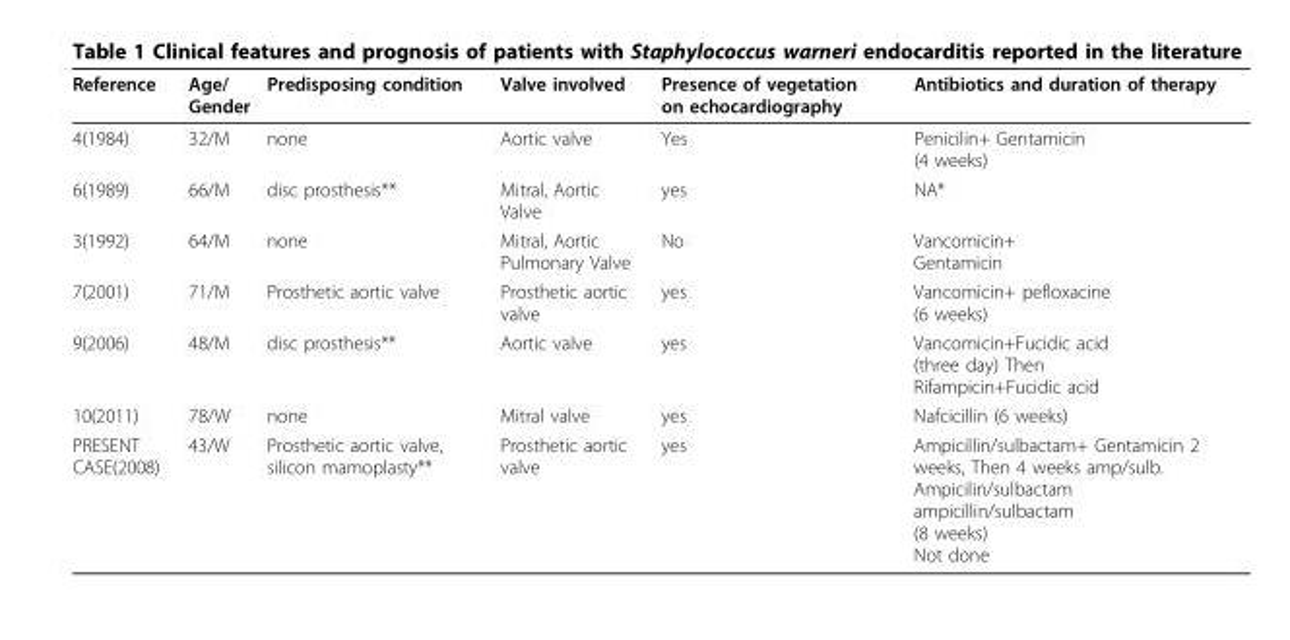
<table><thead><tr><td>Reference</td><td>Age/ Gender</td><td>Predisposing condition</td><td>Valve involved</td><td>Presence of vegetation on echocardiography</td><td>Antibiotics and duration of therapy</td></tr></thead><tbody><tr><td>4(1984)</td><td>32/M</td><td>none</td><td>Aortic valve</td><td>Yes</td><td>Penicilin+ Gentamicin (4 weeks)</td></tr><tr><td>6(1989)</td><td>66/M</td><td>disc prosthesis**</td><td>Mitral, Aortic Valve</td><td>yes</td><td>NA*</td></tr><tr><td>3(1992)</td><td>64/M</td><td>none</td><td>Mitral, Aortic Pulmonary Valve</td><td>No</td><td>Vancomicin+ Gentamicin</td></tr><tr><td>7(2001)</td><td>71/M</td><td>Prosthetic aortic valve</td><td>Prosthetic aortic valve</td><td>yes</td><td>Vancomicin+ pefloxacine (6 weeks)</td></tr><tr><td>9(2006)</td><td>48/M</td><td>disc prosthesis**</td><td>Aortic valve</td><td>yes</td><td>Vancomicin+Fucidic acid (three day) Then Rifampicin+Fucidic acid</td></tr><tr><td>10(2011)</td><td>78/W</td><td>none</td><td>Mitral valve</td><td>yes</td><td>Nafcicillin (6 weeks)</td></tr><tr><td>PRESENT CASE(2008)</td><td>43/W</td><td>Prosthetic aortic valve, silicon mamoplasty**</td><td>Prosthetic aortic valve</td><td>yes</td><td>Ampicillin/sulbactam+ Gentamicin 2 weeks, Then 4 weeks amp/sulb. Ampicilin/sulbactam ampicillin/sulbactam (8 weeks) Not done</td></tr></tbody></table>